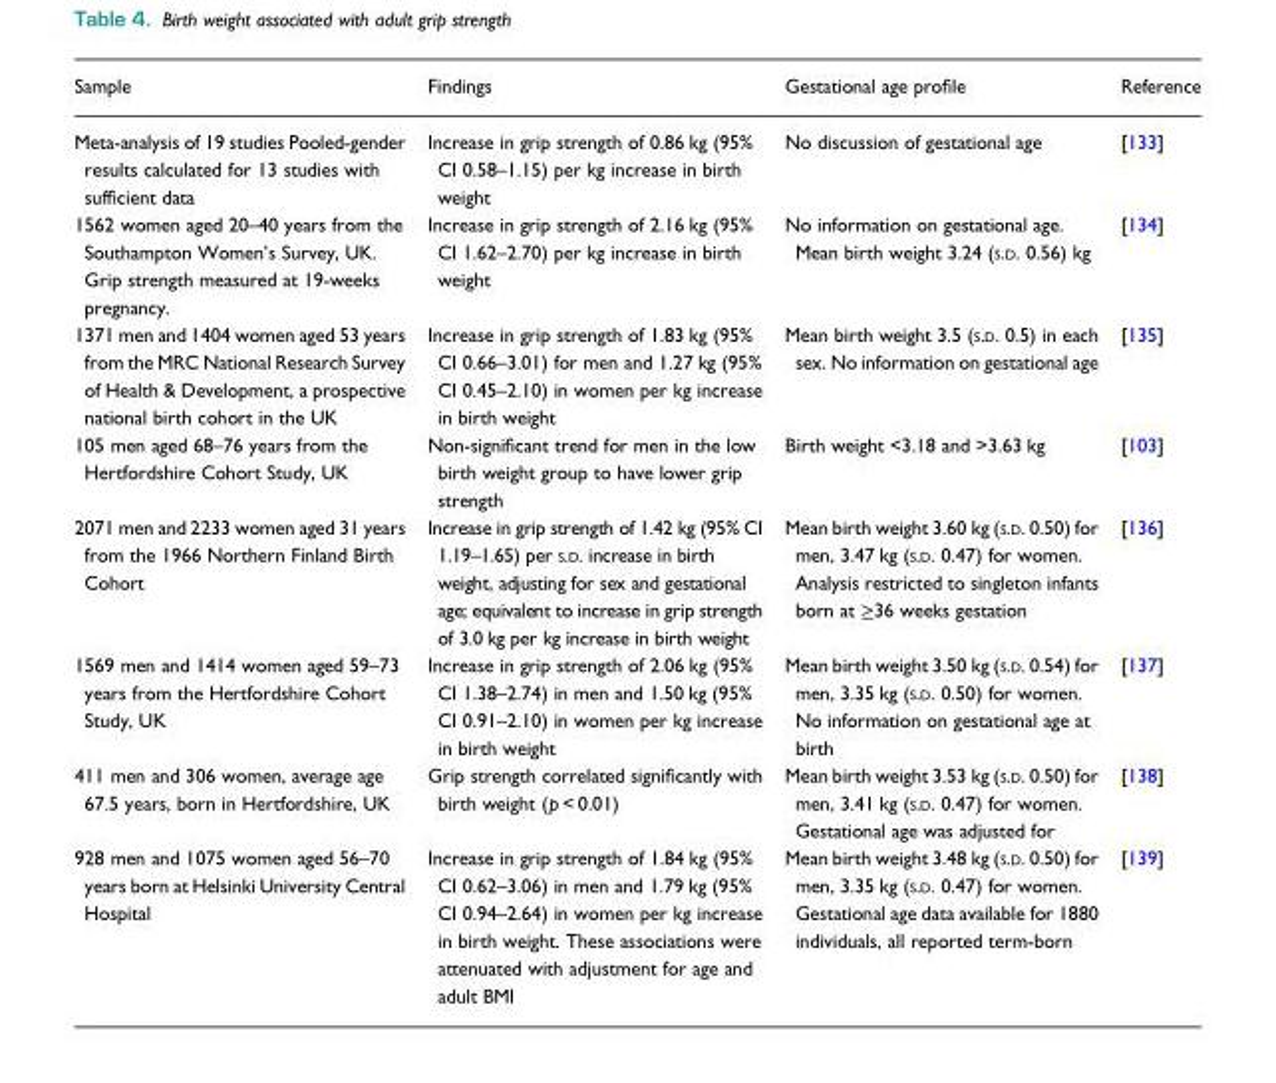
<table><thead><tr><td>Sample</td><td>Findings</td><td>Gestational age profile</td><td>Reference</td></tr></thead><tbody><tr><td>Meta-analysis of 19 studies Pooled-gender results calculated for 13 studies with sufficient data</td><td>Increase in grip strength of 0.86 kg (95% CI 0.58–1.15) per kg increase in birth weight</td><td>No discussion of gestational age</td><td>[133]</td></tr><tr><td>1562 women aged 20–40 years from the Southampton Women’s Survey, UK. Grip strength measured at 19-weeks pregnancy.</td><td>Increase in grip strength of 2.16 kg (95% CI 1.62–2.70) per kg increase in birth weight</td><td>No information on gestational age. Mean birth weight 3.24 (S.D. 0.56) kg</td><td>[134]</td></tr><tr><td>1371 men and 1404 women aged 53 years from the MRC National Research Survey of Health &amp; Development, a prospective national birth cohort in the UK</td><td>Increase in grip strength of 1.83 kg (95% CI 0.66–3.01) for men and 1.27 kg (95% CI 0.45–2.10) in women per kg increase in birth weight</td><td>Mean birth weight 3.5 (S.D. 0.5) in each sex. No information on gestational age</td><td>[135]</td></tr><tr><td>105 men aged 68–76 years from the Hertfordshire Cohort Study, UK</td><td>Non-significant trend for men in the low birth weight group to have lower grip strength</td><td>Birth weight &lt;3.18 and &gt;3.63 kg</td><td>[103]</td></tr><tr><td>2071 men and 2233 women aged 31 years from the 1966 Northern Finland Birth Cohort</td><td>Increase in grip strength of 1.42 kg (95% CI 1.19–1.65) per S.D. increase in birth weight, adjusting for sex and gestational age; equivalent to increase in grip strength of 3.0 kg per kg increase in birth weight</td><td>Mean birth weight 3.60 kg (S.D. 0.50) for men, 3.47 kg (S.D. 0.47) for women. Analysis restricted to singleton infants born at ≥36 weeks gestation</td><td>[136]</td></tr><tr><td>1569 men and 1414 women aged 59–73 years from the Hertfordshire Cohort Study, UK</td><td>Increase in grip strength of 2.06 kg (95% CI 1.38–2.74) in men and 1.50 kg (95% CI 0.91–2.10) in women per kg increase in birth weight</td><td>Mean birth weight 3.50 kg (S.D. 0.54) for men, 3.35 kg (S.D. 0.50) for women. No information on gestational age at birth</td><td>[137]</td></tr><tr><td>411 men and 306 women, average age 67.5 years, born in Hertfordshire, UK</td><td>Grip strength correlated significantly with birth weight (p &lt; 0.01)</td><td>Mean birth weight 3.53 kg (S.D. 0.50) for men, 3.41 kg (S.D. 0.47) for women. Gestational age was adjusted for</td><td>[138]</td></tr><tr><td>928 men and 1075 women aged 56–70 years born at Helsinki University Central Hospital</td><td>Increase in grip strength of 1.84 kg (95% CI 0.62–3.06) in men and 1.79 kg (95% CI 0.94–2.64) in women per kg increase in birth weight. These associations were attenuated with adjustment for age and adult BMI</td><td>Mean birth weight 3.48 kg (S.D. 0.50) for men, 3.35 kg (S.D. 0.47) for women. Gestational age data available for 1880 individuals, all reported term-born</td><td>[139]</td></tr></tbody></table>